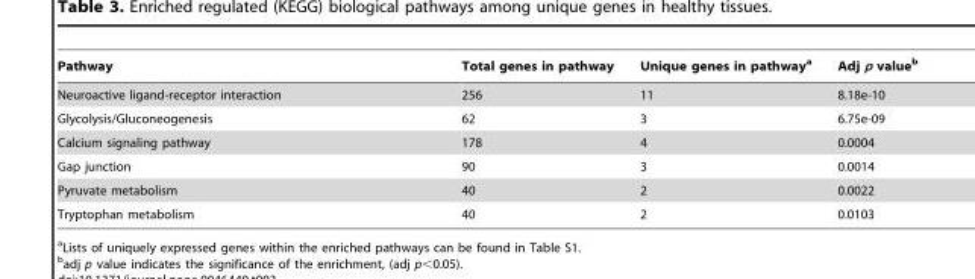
<table><thead><tr><td>Pathway</td><td>Total genes in pathway</td><td>Unique genes in pathway<sup>a</sup></td><td>Adj p value<sup>b</sup></td></tr></thead><tbody><tr><td>Neuroactive ligand-receptor interaction</td><td>256</td><td>11</td><td>8.18e-10</td></tr><tr><td>Glycolysis/Gluconeogenesis</td><td>62</td><td>3</td><td>6.75e-09</td></tr><tr><td>Calcium signaling pathway</td><td>178</td><td>4</td><td>0.0004</td></tr><tr><td>Gap junction</td><td>90</td><td>3</td><td>0.0014</td></tr><tr><td>Pyruvate metabolism</td><td>40</td><td>2</td><td>0.0022</td></tr><tr><td>Tryptophan metabolism</td><td>40</td><td>2</td><td>0.0103</td></tr></tbody></table>